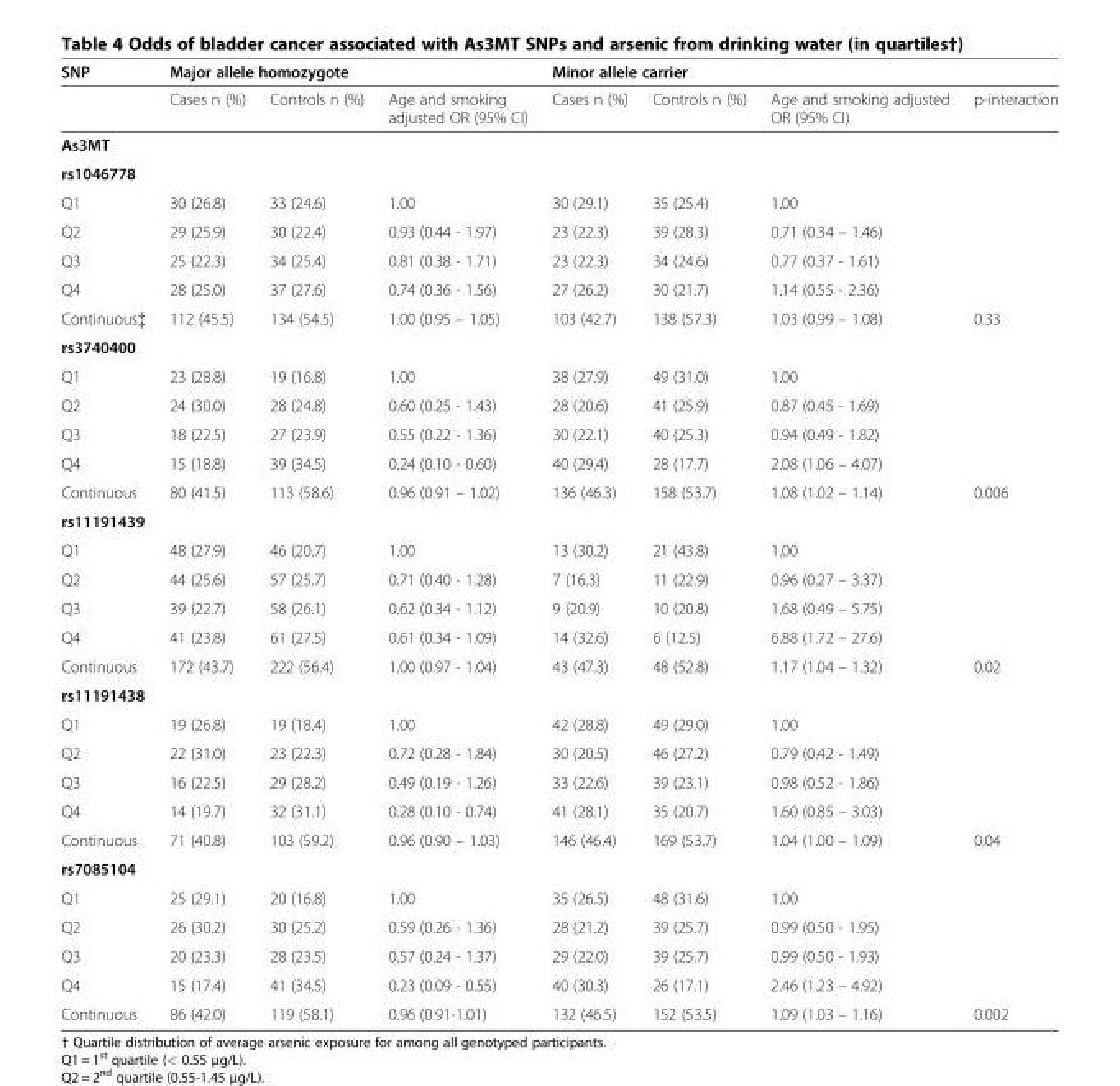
<table><thead><tr><td rowspan="2">SNP</td><td colspan="3">Major allele homozygote</td><td colspan="3">Minor allele carrier</td><td rowspan="2">p-interaction</td></tr><tr><td>Cases n (%)</td><td>Controls n (%)</td><td>Age and smoking adjusted OR (95% CI)</td><td>Cases n (%)</td><td>Controls n (%)</td><td>Age and smoking adjusted OR (95% CI)</td></tr></thead><tbody><tr><td colspan="7">As3MT</td><td rowspan="6"></td></tr><tr><td colspan="7">rs1046778</td></tr><tr><td>Q1</td><td>30 (26.8)</td><td>33 (24.6)</td><td>1.00</td><td>30 (29.1)</td><td>35 (25.4)</td><td>1.00</td></tr><tr><td>Q2</td><td>29 (25.9)</td><td>30 (22.4)</td><td>0.93 (0.44 - 1.97)</td><td>23 (22.3)</td><td>39 (28.3)</td><td>0.71 (0.34 – 1.46)</td></tr><tr><td>Q3</td><td>25 (22.3)</td><td>34 (25.4)</td><td>0.81 (0.38 - 1.71)</td><td>23 (22.3)</td><td>34 (24.6)</td><td>0.77 (0.37 - 1.61)</td></tr><tr><td>Q4</td><td>28 (25.0)</td><td>37 (27.6)</td><td>0.74 (0.36 - 1.56)</td><td>27 (26.2)</td><td>30 (21.7)</td><td>1.14 (0.55 - 2.36)</td></tr><tr><td>Continuous‡</td><td>112 (45.5)</td><td>134 (54.5)</td><td>1.00 (0.95 – 1.05)</td><td>103 (42.7)</td><td>138 (57.3)</td><td>1.03 (0.99 – 1.08)</td><td>0.33</td></tr><tr><td colspan="7">rs3740400</td><td rowspan="5"></td></tr><tr><td>Q1</td><td>23 (28.8)</td><td>19 (16.8)</td><td>1.00</td><td>38 (27.9)</td><td>49 (31.0)</td><td>1.00</td></tr><tr><td>Q2</td><td>24 (30.0)</td><td>28 (24.8)</td><td>0.60 (0.25 - 1.43)</td><td>28 (20.6)</td><td>41 (25.9)</td><td>0.87 (0.45 - 1.69)</td></tr><tr><td>Q3</td><td>18 (22.5)</td><td>27 (23.9)</td><td>0.55 (0.22 - 1.36)</td><td>30 (22.1)</td><td>40 (25.3)</td><td>0.94 (0.49 - 1.82)</td></tr><tr><td>Q4</td><td>15 (18.8)</td><td>39 (34.5)</td><td>0.24 (0.10 - 0.60)</td><td>40 (29.4)</td><td>28 (17.7)</td><td>2.08 (1.06 – 4.07)</td></tr><tr><td>Continuous</td><td>80 (41.5)</td><td>113 (58.6)</td><td>0.96 (0.91 – 1.02)</td><td>136 (46.3)</td><td>158 (53.7)</td><td>1.08 (1.02 – 1.14)</td><td>0.006</td></tr><tr><td colspan="7">rs11191439</td><td rowspan="5"></td></tr><tr><td>Q1</td><td>48 (27.9)</td><td>46 (20.7)</td><td>1.00</td><td>13 (30.2)</td><td>21 (43.8)</td><td>1.00</td></tr><tr><td>Q2</td><td>44 (25.6)</td><td>57 (25.7)</td><td>0.71 (0.40 - 1.28)</td><td>7 (16.3)</td><td>11 (22.9)</td><td>0.96 (0.27 – 3.37)</td></tr><tr><td>Q3</td><td>39 (22.7)</td><td>58 (26.1)</td><td>0.62 (0.34 - 1.12)</td><td>9 (20.9)</td><td>10 (20.8)</td><td>1.68 (0.49 – 5.75)</td></tr><tr><td>Q4</td><td>41 (23.8)</td><td>61 (27.5)</td><td>0.61 (0.34 - 1.09)</td><td>14 (32.6)</td><td>6 (12.5)</td><td>6.88 (1.72 – 27.6)</td></tr><tr><td>Continuous</td><td>172 (43.7)</td><td>222 (56.4)</td><td>1.00 (0.97 - 1.04)</td><td>43 (47.3)</td><td>48 (52.8)</td><td>1.17 (1.04 – 1.32)</td><td>0.02</td></tr><tr><td colspan="7">rs11191438</td><td rowspan="5"></td></tr><tr><td>Q1</td><td>19 (26.8)</td><td>19 (18.4)</td><td>1.00</td><td>42 (28.8)</td><td>49 (29.0)</td><td>1.00</td></tr><tr><td>Q2</td><td>22 (31.0)</td><td>23 (22.3)</td><td>0.72 (0.28 - 1.84)</td><td>30 (20.5)</td><td>46 (27.2)</td><td>0.79 (0.42 - 1.49)</td></tr><tr><td>Q3</td><td>16 (22.5)</td><td>29 (28.2)</td><td>0.49 (0.19 - 1.26)</td><td>33 (22.6)</td><td>39 (23.1)</td><td>0.98 (0.52 - 1.86)</td></tr><tr><td>Q4</td><td>14 (19.7)</td><td>32 (31.1)</td><td>0.28 (0.10 - 0.74)</td><td>41 (28.1)</td><td>35 (20.7)</td><td>1.60 (0.85 – 3.03)</td></tr><tr><td>Continuous</td><td>71 (40.8)</td><td>103 (59.2)</td><td>0.96 (0.90 – 1.03)</td><td>146 (46.4)</td><td>169 (53.7)</td><td>1.04 (1.00 – 1.09)</td><td>0.04</td></tr><tr><td colspan="7">rs7085104</td><td rowspan="5"></td></tr><tr><td>Q1</td><td>25 (29.1)</td><td>20 (16.8)</td><td>1.00</td><td>35 (26.5)</td><td>48 (31.6)</td><td>1.00</td></tr><tr><td>Q2</td><td>26 (30.2)</td><td>30 (25.2)</td><td>0.59 (0.26 - 1.36)</td><td>28 (21.2)</td><td>39 (25.7)</td><td>0.99 (0.50 - 1.95)</td></tr><tr><td>Q3</td><td>20 (23.3)</td><td>28 (23.5)</td><td>0.57 (0.24 - 1.37)</td><td>29 (22.0)</td><td>39 (25.7)</td><td>0.99 (0.50 - 1.93)</td></tr><tr><td>Q4</td><td>15 (17.4)</td><td>41 (34.5)</td><td>0.23 (0.09 - 0.55)</td><td>40 (30.3)</td><td>26 (17.1)</td><td>2.46 (1.23 – 4.92)</td></tr><tr><td>Continuous</td><td>86 (42.0)</td><td>119 (58.1)</td><td>0.96 (0.91-1.01)</td><td>132 (46.5)</td><td>152 (53.5)</td><td>1.09 (1.03 – 1.16)</td><td>0.002</td></tr></tbody></table>